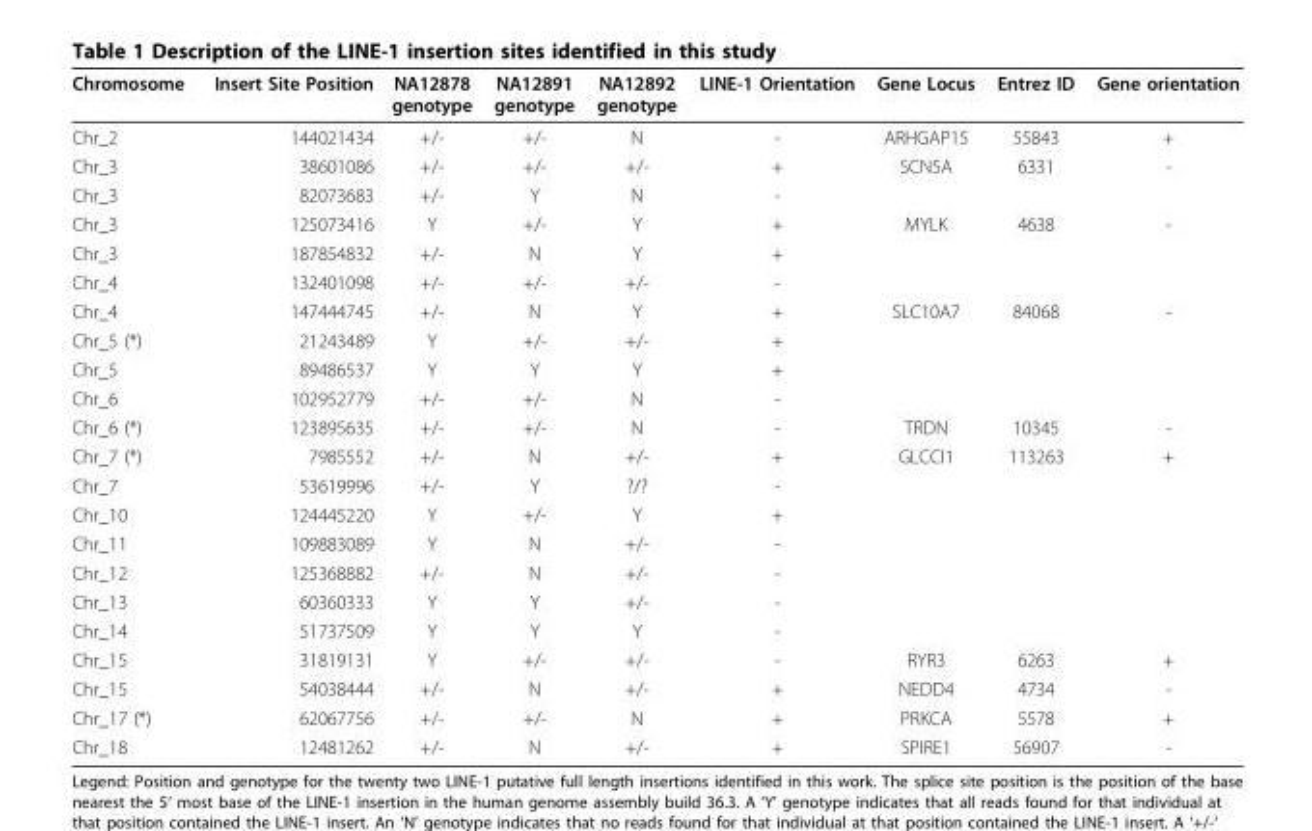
<table><tbody><tr><td>Chromosome</td><td>Insert Site Position</td><td>NA12878 genotype</td><td>NA12891 genotype</td><td>NA12892 genotype</td><td>LINE-1 Orientation</td><td>Gene Locus</td><td>Entrez ID</td><td>Gene orientation</td></tr><tr><td>Chr_2</td><td>144021434</td><td>+/-</td><td>+/-</td><td>N</td><td>-</td><td>ARHGAP15</td><td>55843</td><td>+</td></tr><tr><td>Chr_3</td><td>38601086</td><td>+/-</td><td>+/-</td><td>+/-</td><td>+</td><td>SCN5A</td><td>6331</td><td>-</td></tr><tr><td>Chr_3</td><td>82073683</td><td>+/-</td><td>Y</td><td>N</td><td>-</td><td></td><td></td><td></td></tr><tr><td>Chr_3</td><td>125073416</td><td>Y</td><td>+/-</td><td>Y</td><td>+</td><td>MYLK</td><td>4638</td><td>-</td></tr><tr><td>Chr_3</td><td>187854832</td><td>+/-</td><td>N</td><td>Y</td><td>+</td><td></td><td></td><td></td></tr><tr><td>Chr_4</td><td>132401098</td><td>+/-</td><td>+/-</td><td>+/-</td><td>-</td><td></td><td></td><td></td></tr><tr><td>Chr_4</td><td>147444745</td><td>+/-</td><td>N</td><td>Y</td><td>+</td><td>SLC10A7</td><td>84068</td><td>-</td></tr><tr><td>Chr_5 (*)</td><td>21243489</td><td>Y</td><td>+/-</td><td>+/-</td><td>+</td><td></td><td></td><td></td></tr><tr><td>Chr_5</td><td>89486537</td><td>Y</td><td>Y</td><td>Y</td><td>+</td><td></td><td></td><td></td></tr><tr><td>Chr_6</td><td>102952779</td><td>+/-</td><td>+/-</td><td>N</td><td>-</td><td></td><td></td><td></td></tr><tr><td>Chr_6 (*)</td><td>123895635</td><td>+/-</td><td>+/-</td><td>N</td><td>-</td><td>TRDN</td><td>10345</td><td>-</td></tr><tr><td>Chr_7 (*)</td><td>7985552</td><td>+/-</td><td>N</td><td>+/-</td><td>+</td><td>GLCCI1</td><td>113263</td><td>+</td></tr><tr><td>Chr_7</td><td>53619996</td><td>+/-</td><td>Y</td><td>?/?</td><td>-</td><td></td><td></td><td></td></tr><tr><td>Chr_10</td><td>124445220</td><td>Y</td><td>+/-</td><td>Y</td><td>+</td><td></td><td></td><td></td></tr><tr><td>Chr_11</td><td>109883089</td><td>Y</td><td>N</td><td>+/-</td><td>-</td><td></td><td></td><td></td></tr><tr><td>Chr_12</td><td>125368882</td><td>+/-</td><td>N</td><td>+/-</td><td>-</td><td></td><td></td><td></td></tr><tr><td>Chr_13</td><td>60360333</td><td>Y</td><td>Y</td><td>+/-</td><td>-</td><td></td><td></td><td></td></tr><tr><td>Chr_14</td><td>51737509</td><td>Y</td><td>Y</td><td>Y</td><td>-</td><td></td><td></td><td></td></tr><tr><td>Chr_15</td><td>31819131</td><td>Y</td><td>+/-</td><td>+/-</td><td>-</td><td>RYR3</td><td>6263</td><td>+</td></tr><tr><td>Chr_15</td><td>54038444</td><td>+/-</td><td>N</td><td>+/-</td><td>+</td><td>NEDD4</td><td>4734</td><td>-</td></tr><tr><td>Chr_17 (*)</td><td>62067756</td><td>+/-</td><td>+/-</td><td>N</td><td>+</td><td>PRKCA</td><td>5578</td><td>+</td></tr><tr><td>Chr_18</td><td>12481262</td><td>+/-</td><td>N</td><td>+/-</td><td>+</td><td>SPIRE1</td><td>56907</td><td>-</td></tr></tbody></table>